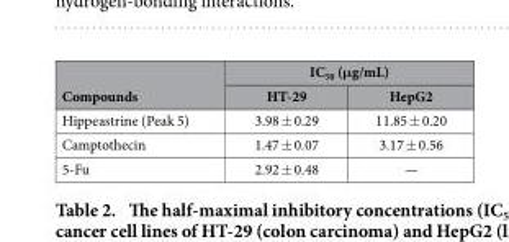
<table><thead><tr><td rowspan="2">Compounds</td><td colspan="2">IC<sub>50</sub> (μg/mL)</td></tr><tr><td>HT-29</td><td>HepG2</td></tr></thead><tbody><tr><td>Hippeastrine (Peak 5)</td><td>3.98 ± 0.29</td><td>11.85 ± 0.20</td></tr><tr><td>Camptothecin</td><td>1.47 ± 0.07</td><td>3.17 ± 0.56</td></tr><tr><td>5-Fu</td><td>2.92 ± 0.48</td><td>—</td></tr></tbody></table>